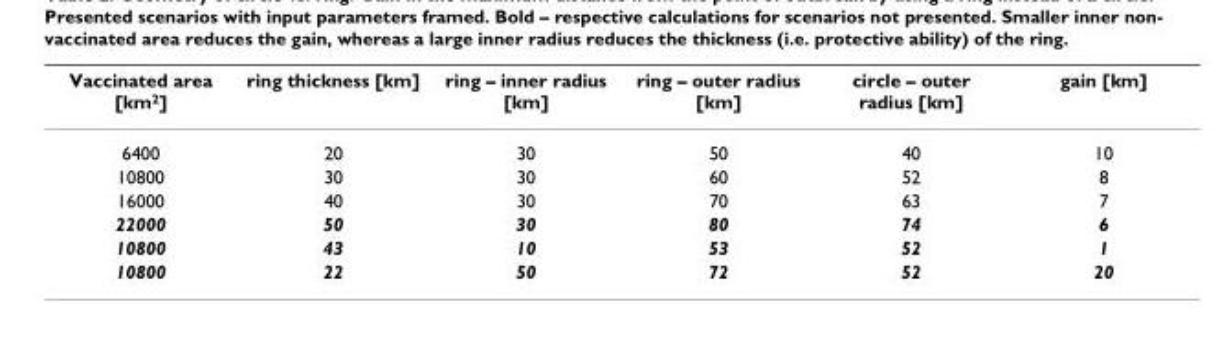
<table><thead><tr><td>Vaccinated area [km<sup>2</sup>]</td><td>ring thickness [km]</td><td>ring – inner radius [km]</td><td>ring – outer radius [km]</td><td>circle – outer radius [km]</td><td>gain [km]</td></tr></thead><tbody><tr><td>6400</td><td>20</td><td>30</td><td>50</td><td>40</td><td>10</td></tr><tr><td>10800</td><td>30</td><td>30</td><td>60</td><td>52</td><td>8</td></tr><tr><td>16000</td><td>40</td><td>30</td><td>70</td><td>63</td><td>7</td></tr><tr><td>22000</td><td>50</td><td>30</td><td>80</td><td>74</td><td>6</td></tr><tr><td>10800</td><td>43</td><td>10</td><td>53</td><td>52</td><td>1</td></tr><tr><td>10800</td><td>22</td><td>50</td><td>72</td><td>52</td><td>20</td></tr></tbody></table>